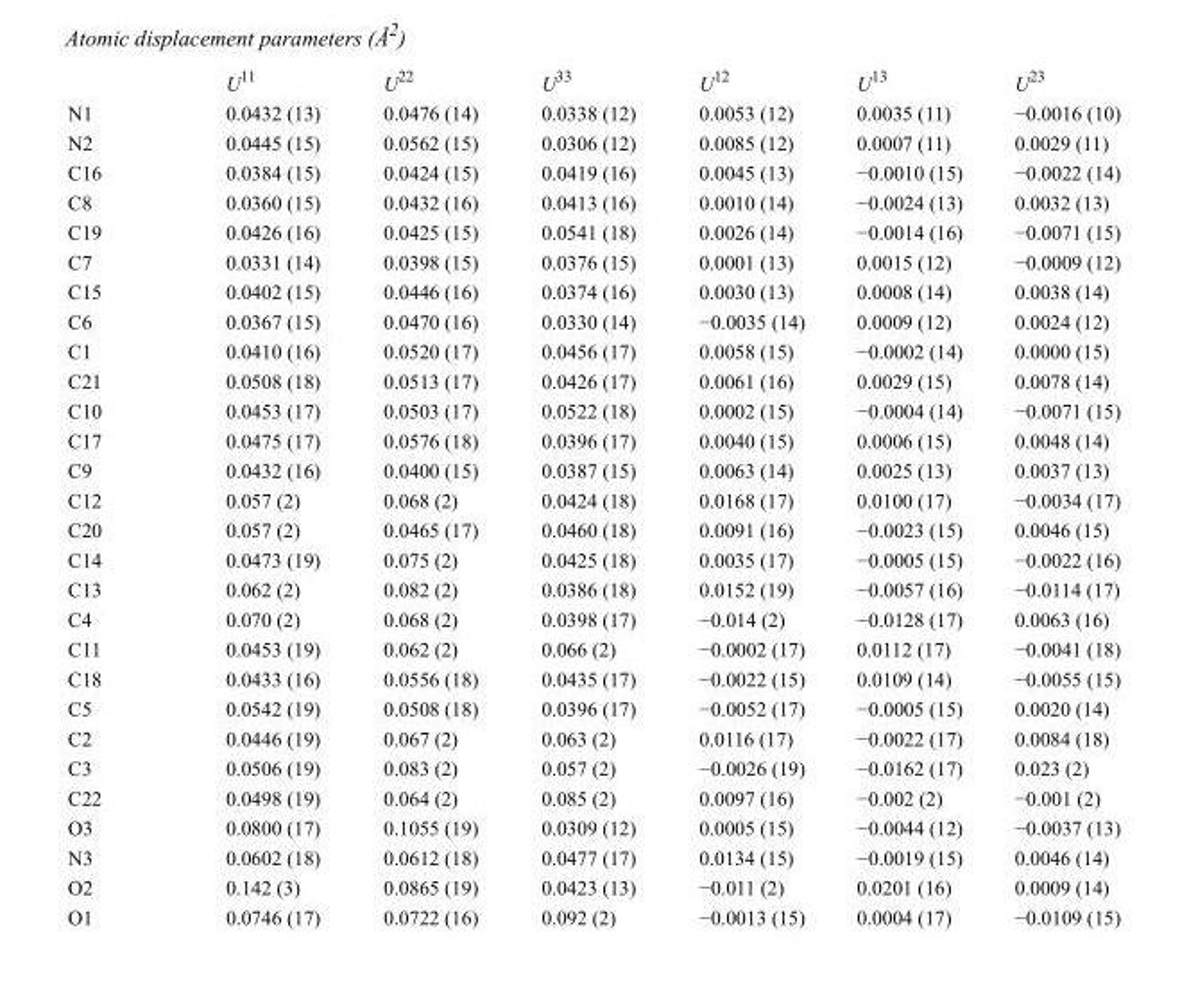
<table><thead><tr><td></td><td>U<sup>11</sup></td><td>U<sup>22</sup></td><td>U<sup>33</sup></td><td>U<sup>12</sup></td><td>U<sup>13</sup></td><td>U<sup>23</sup></td></tr></thead><tbody><tr><td>N1</td><td>0.0432 (13)</td><td>0.0476 (14)</td><td>0.0338 (12)</td><td>0.0053 (12)</td><td>0.0035 (11)</td><td>−0.0016 (10)</td></tr><tr><td>N2</td><td>0.0445 (15)</td><td>0.0562 (15)</td><td>0.0306 (12)</td><td>0.0085 (12)</td><td>0.0007 (11)</td><td>0.0029 (11)</td></tr><tr><td>C16</td><td>0.0384 (15)</td><td>0.0424 (15)</td><td>0.0419 (16)</td><td>0.0045 (13)</td><td>−0.0010 (15)</td><td>−0.0022 (14)</td></tr><tr><td>C8</td><td>0.0360 (15)</td><td>0.0432 (16)</td><td>0.0413 (16)</td><td>0.0010 (14)</td><td>−0.0024 (13)</td><td>0.0032 (13)</td></tr><tr><td>C19</td><td>0.0426 (16)</td><td>0.0425 (15)</td><td>0.0541 (18)</td><td>0.0026 (14)</td><td>−0.0014 (16)</td><td>−0.0071 (15)</td></tr><tr><td>C7</td><td>0.0331 (14)</td><td>0.0398 (15)</td><td>0.0376 (15)</td><td>0.0001 (13)</td><td>0.0015 (12)</td><td>−0.0009 (12)</td></tr><tr><td>C15</td><td>0.0402 (15)</td><td>0.0446 (16)</td><td>0.0374 (16)</td><td>0.0030 (13)</td><td>0.0008 (14)</td><td>0.0038 (14)</td></tr><tr><td>C6</td><td>0.0367 (15)</td><td>0.0470 (16)</td><td>0.0330 (14)</td><td>−0.0035 (14)</td><td>0.0009 (12)</td><td>0.0024 (12)</td></tr><tr><td>C1</td><td>0.0410 (16)</td><td>0.0520 (17)</td><td>0.0456 (17)</td><td>0.0058 (15)</td><td>−0.0002 (14)</td><td>0.0000 (15)</td></tr><tr><td>C21</td><td>0.0508 (18)</td><td>0.0513 (17)</td><td>0.0426 (17)</td><td>0.0061 (16)</td><td>0.0029 (15)</td><td>0.0078 (14)</td></tr><tr><td>C10</td><td>0.0453 (17)</td><td>0.0503 (17)</td><td>0.0522 (18)</td><td>0.0002 (15)</td><td>−0.0004 (14)</td><td>−0.0071 (15)</td></tr><tr><td>C17</td><td>0.0475 (17)</td><td>0.0576 (18)</td><td>0.0396 (17)</td><td>0.0040 (15)</td><td>0.0006 (15)</td><td>0.0048 (14)</td></tr><tr><td>C9</td><td>0.0432 (16)</td><td>0.0400 (15)</td><td>0.0387 (15)</td><td>0.0063 (14)</td><td>0.0025 (13)</td><td>0.0037 (13)</td></tr><tr><td>C12</td><td>0.057 (2)</td><td>0.068 (2)</td><td>0.0424 (18)</td><td>0.0168 (17)</td><td>0.0100 (17)</td><td>−0.0034 (17)</td></tr><tr><td>C20</td><td>0.057 (2)</td><td>0.0465 (17)</td><td>0.0460 (18)</td><td>0.0091 (16)</td><td>−0.0023 (15)</td><td>0.0046 (15)</td></tr><tr><td>C14</td><td>0.0473 (19)</td><td>0.075 (2)</td><td>0.0425 (18)</td><td>0.0035 (17)</td><td>−0.0005 (15)</td><td>−0.0022 (16)</td></tr><tr><td>C13</td><td>0.062 (2)</td><td>0.082 (2)</td><td>0.0386 (18)</td><td>0.0152 (19)</td><td>−0.0057 (16)</td><td>−0.0114 (17)</td></tr><tr><td>C4</td><td>0.070 (2)</td><td>0.068 (2)</td><td>0.0398 (17)</td><td>−0.014 (2)</td><td>−0.0128 (17)</td><td>0.0063 (16)</td></tr><tr><td>C11</td><td>0.0453 (19)</td><td>0.062 (2)</td><td>0.066 (2)</td><td>−0.0002 (17)</td><td>0.0112 (17)</td><td>−0.0041 (18)</td></tr><tr><td>C18</td><td>0.0433 (16)</td><td>0.0556 (18)</td><td>0.0435 (17)</td><td>−0.0022 (15)</td><td>0.0109 (14)</td><td>−0.0055 (15)</td></tr><tr><td>C5</td><td>0.0542 (19)</td><td>0.0508 (18)</td><td>0.0396 (17)</td><td>−0.0052 (17)</td><td>−0.0005 (15)</td><td>0.0020 (14)</td></tr><tr><td>C2</td><td>0.0446 (19)</td><td>0.067 (2)</td><td>0.063 (2)</td><td>0.0116 (17)</td><td>−0.0022 (17)</td><td>0.0084 (18)</td></tr><tr><td>C3</td><td>0.0506 (19)</td><td>0.083 (2)</td><td>0.057 (2)</td><td>−0.0026 (19)</td><td>−0.0162 (17)</td><td>0.023 (2)</td></tr><tr><td>C22</td><td>0.0498 (19)</td><td>0.064 (2)</td><td>0.085 (2)</td><td>0.0097 (16)</td><td>−0.002 (2)</td><td>−0.001 (2)</td></tr><tr><td>O3</td><td>0.0800 (17)</td><td>0.1055 (19)</td><td>0.0309 (12)</td><td>0.0005 (15)</td><td>−0.0044 (12)</td><td>−0.0037 (13)</td></tr><tr><td>N3</td><td>0.0602 (18)</td><td>0.0612 (18)</td><td>0.0477 (17)</td><td>0.0134 (15)</td><td>−0.0019 (15)</td><td>0.0046 (14)</td></tr><tr><td>O2</td><td>0.142 (3)</td><td>0.0865 (19)</td><td>0.0423 (13)</td><td>−0.011 (2)</td><td>0.0201 (16)</td><td>0.0009 (14)</td></tr><tr><td>O1</td><td>0.0746 (17)</td><td>0.0722 (16)</td><td>0.092 (2)</td><td>−0.0013 (15)</td><td>0.0004 (17)</td><td>−0.0109 (15)</td></tr></tbody></table>